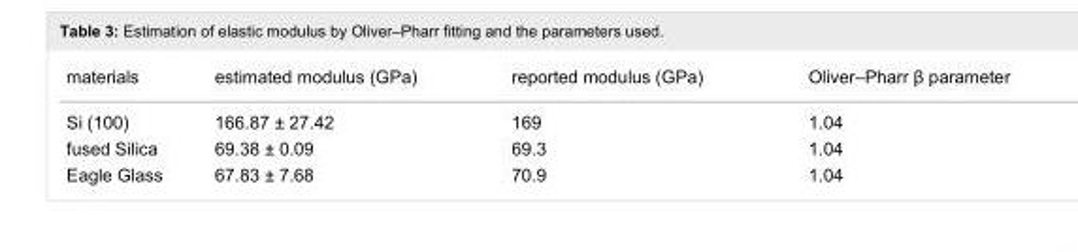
<table><tbody><tr><td>materials</td><td>estimated modulus (GPa)</td><td>reported modulus (GPa)</td><td>Oliver–Pharr β parameter</td></tr><tr><td>Si (100)</td><td>166.87 ± 27.42</td><td>169</td><td>1.04</td></tr><tr><td>fused Silica</td><td>69.38 ± 0.09</td><td>69.3</td><td>1.04</td></tr><tr><td>Eagle Glass</td><td>67.83 ± 7.68</td><td>70.9</td><td>1.04</td></tr></tbody></table>